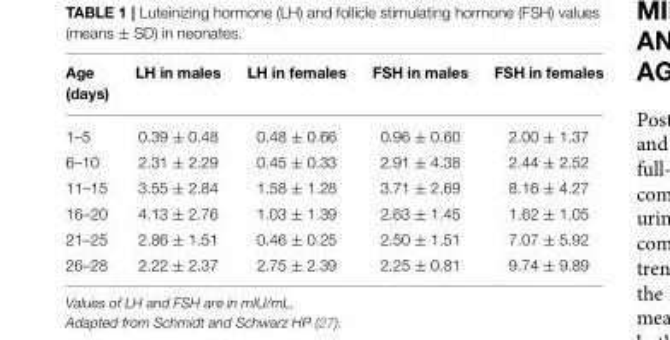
<table><thead><tr><td>Age (days)</td><td>LH in males</td><td>LH in females</td><td>FSH in males</td><td>FSH in females</td></tr></thead><tbody><tr><td>1–5</td><td>0.39 ± 0.48</td><td>0.48 ± 0.66</td><td>0.96 ± 0.60</td><td>2.00 ± 1.37</td></tr><tr><td>6–10</td><td>2.31 ± 2.29</td><td>0.45 ± 0.33</td><td>2.91 ± 4.38</td><td>2.44 ± 2.52</td></tr><tr><td>11–15</td><td>3.55 ± 2.84</td><td>1.58 ± 1.28</td><td>3.71 ± 2.69</td><td>8.16 ± 4.27</td></tr><tr><td>16–20</td><td>4.13 ± 2.76</td><td>1.03 ± 1.39</td><td>2.63 ± 1.45</td><td>1.62 ± 1.05</td></tr><tr><td>21–25</td><td>2.86 ± 1.51</td><td>0.46 ± 0.25</td><td>2.50 ± 1.51</td><td>7.07 ± 5.92</td></tr><tr><td>26–28</td><td>2.22 ± 2.37</td><td>2.75 ± 2.39</td><td>2.25 ± 0.81</td><td>9.74 ± 9.89</td></tr></tbody></table>